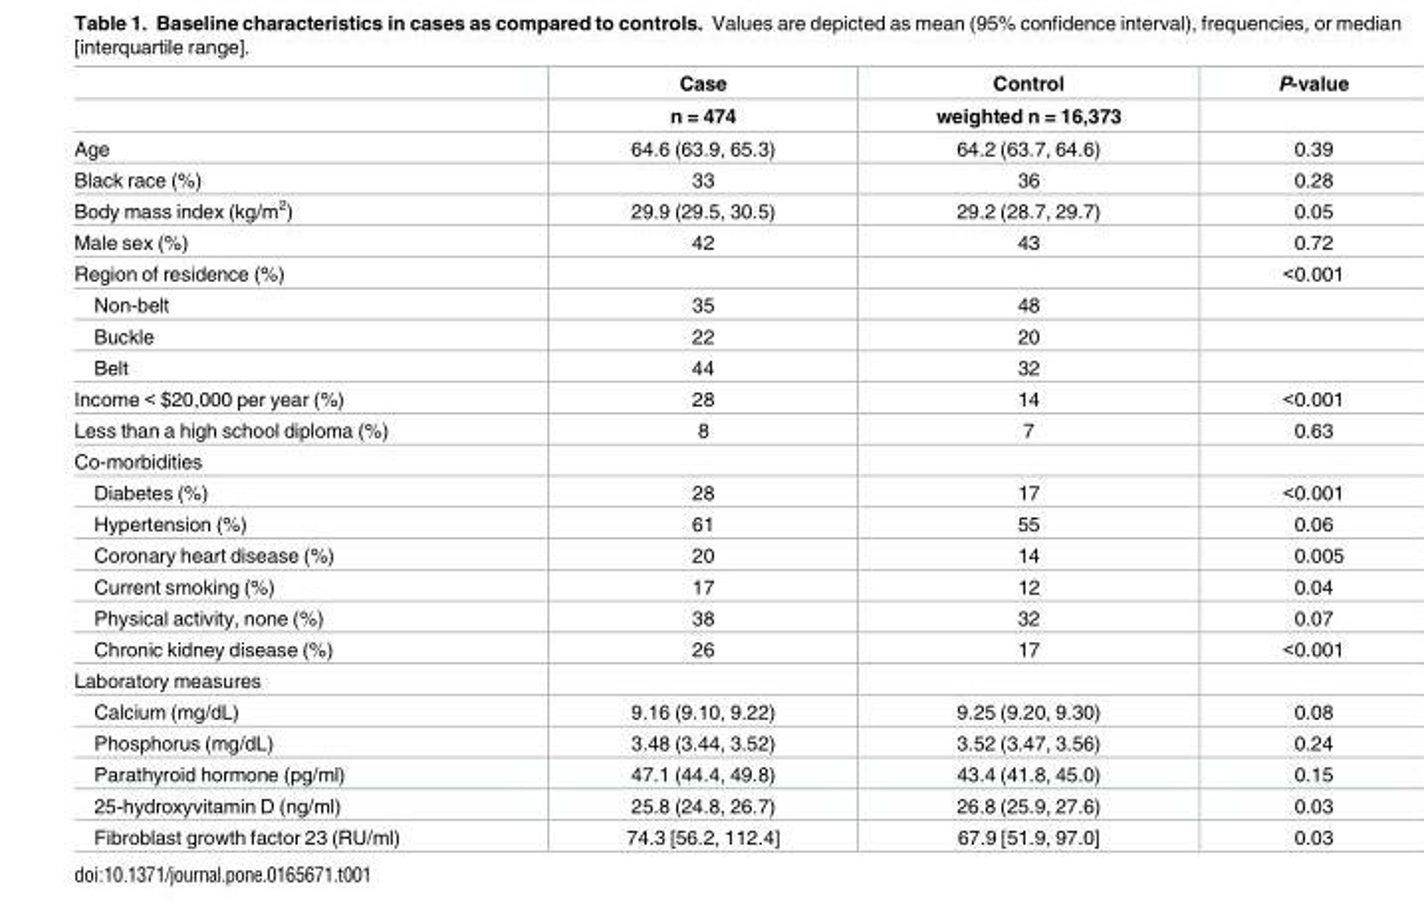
<table><thead><tr><td rowspan="2"></td><td rowspan="2">Case n = 474</td><td rowspan="2">Control weighted n = 16,373</td><td rowspan="2">P-value</td></tr><tr></tr></thead><tbody><tr><td>Age</td><td>64.6 (63.9, 65.3)</td><td>64.2 (63.7, 64.6)</td><td>0.39</td></tr><tr><td>Black race (%)</td><td>33</td><td>36</td><td>0.28</td></tr><tr><td>Body mass index (kg/m<sup>2</sup>)</td><td>29.9 (29.5, 30.5)</td><td>29.2 (28.7, 29.7)</td><td>0.05</td></tr><tr><td>Male sex (%)</td><td>42</td><td>43</td><td>0.72</td></tr><tr><td>Region of residence (%)</td><td></td><td></td><td>&lt;0.001</td></tr><tr><td>Non-belt</td><td>35</td><td>48</td><td></td></tr><tr><td>Buckle</td><td>22</td><td>20</td><td></td></tr><tr><td>Belt</td><td>44</td><td>32</td><td></td></tr><tr><td>Income &lt; $20,000 per year (%)</td><td>28</td><td>14</td><td>&lt;0.001</td></tr><tr><td>Less than a high school diploma (%)</td><td>8</td><td>7</td><td>0.63</td></tr><tr><td colspan="4">Co-morbidities</td></tr><tr><td>Diabetes (%)</td><td>28</td><td>17</td><td>&lt;0.001</td></tr><tr><td>Hypertension (%)</td><td>61</td><td>55</td><td>0.06</td></tr><tr><td>Coronary heart disease (%)</td><td>20</td><td>14</td><td>0.005</td></tr><tr><td>Current smoking (%)</td><td>17</td><td>12</td><td>0.04</td></tr><tr><td>Physical activity, none (%)</td><td>38</td><td>32</td><td>0.07</td></tr><tr><td>Chronic kidney disease (%)</td><td>26</td><td>17</td><td>&lt;0.001</td></tr><tr><td colspan="4">Laboratory measures</td></tr><tr><td>Calcium (mg/dL)</td><td>9.16 (9.10, 9.22)</td><td>9.25 (9.20, 9.30)</td><td>0.08</td></tr><tr><td>Phosphorus (mg/dL)</td><td>3.48 (3.44, 3.52)</td><td>3.52 (3.47, 3.56)</td><td>0.24</td></tr><tr><td>Parathyroid hormone (pg/ml)</td><td>47.1 (44.4, 49.8)</td><td>43.4 (41.8, 45.0)</td><td>0.15</td></tr><tr><td>25-hydroxyvitamin D (ng/ml)</td><td>25.8 (24.8, 26.7)</td><td>26.8 (25.9, 27.6)</td><td>0.03</td></tr><tr><td>Fibroblast growth factor 23 (RU/ml)</td><td>74.3 [56.2, 112.4]</td><td>67.9 [51.9, 97.0]</td><td>0.03</td></tr></tbody></table>